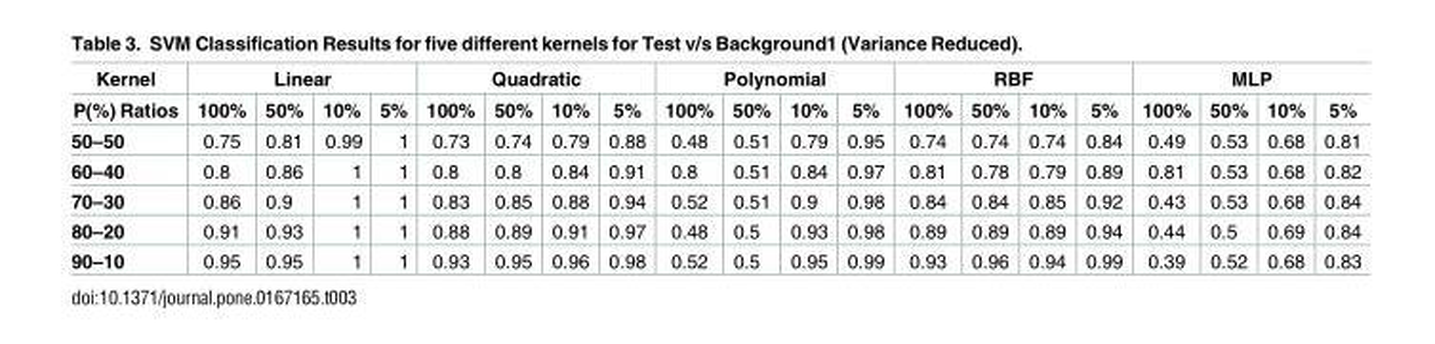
<table><thead><tr><td rowspan="2">Kernel P(%) Ratios</td><td colspan="4">Linear</td><td colspan="4">Quadratic</td><td colspan="4">Polynomial</td><td colspan="4">RBF</td><td colspan="4">MLP</td></tr><tr><td>100%</td><td>50%</td><td>10%</td><td>5%</td><td>100%</td><td>50%</td><td>10%</td><td>5%</td><td>100%</td><td>50%</td><td>10%</td><td>5%</td><td>100%</td><td>50%</td><td>10%</td><td>5%</td><td>100%</td><td>50%</td><td>10%</td><td>5%</td></tr></thead><tbody><tr><td>50–50</td><td>0.75</td><td>0.81</td><td>0.99</td><td>1</td><td>0.73</td><td>0.74</td><td>0.79</td><td>0.88</td><td>0.48</td><td>0.51</td><td>0.79</td><td>0.95</td><td>0.74</td><td>0.74</td><td>0.74</td><td>0.84</td><td>0.49</td><td>0.53</td><td>0.68</td><td>0.81</td></tr><tr><td>60–40</td><td>0.8</td><td>0.86</td><td>1</td><td>1</td><td>0.8</td><td>0.8</td><td>0.84</td><td>0.91</td><td>0.8</td><td>0.51</td><td>0.84</td><td>0.97</td><td>0.81</td><td>0.78</td><td>0.79</td><td>0.89</td><td>0.81</td><td>0.53</td><td>0.68</td><td>0.82</td></tr><tr><td>70–30</td><td>0.86</td><td>0.9</td><td>1</td><td>1</td><td>0.83</td><td>0.85</td><td>0.88</td><td>0.94</td><td>0.52</td><td>0.51</td><td>0.9</td><td>0.98</td><td>0.84</td><td>0.84</td><td>0.85</td><td>0.92</td><td>0.43</td><td>0.53</td><td>0.68</td><td>0.84</td></tr><tr><td>80–20</td><td>0.91</td><td>0.93</td><td>1</td><td>1</td><td>0.88</td><td>0.89</td><td>0.91</td><td>0.97</td><td>0.48</td><td>0.5</td><td>0.93</td><td>0.98</td><td>0.89</td><td>0.89</td><td>0.89</td><td>0.94</td><td>0.44</td><td>0.5</td><td>0.69</td><td>0.84</td></tr><tr><td>90–10</td><td>0.95</td><td>0.95</td><td>1</td><td>1</td><td>0.93</td><td>0.95</td><td>0.96</td><td>0.98</td><td>0.52</td><td>0.5</td><td>0.95</td><td>0.99</td><td>0.93</td><td>0.96</td><td>0.94</td><td>0.99</td><td>0.39</td><td>0.52</td><td>0.68</td><td>0.83</td></tr></tbody></table>